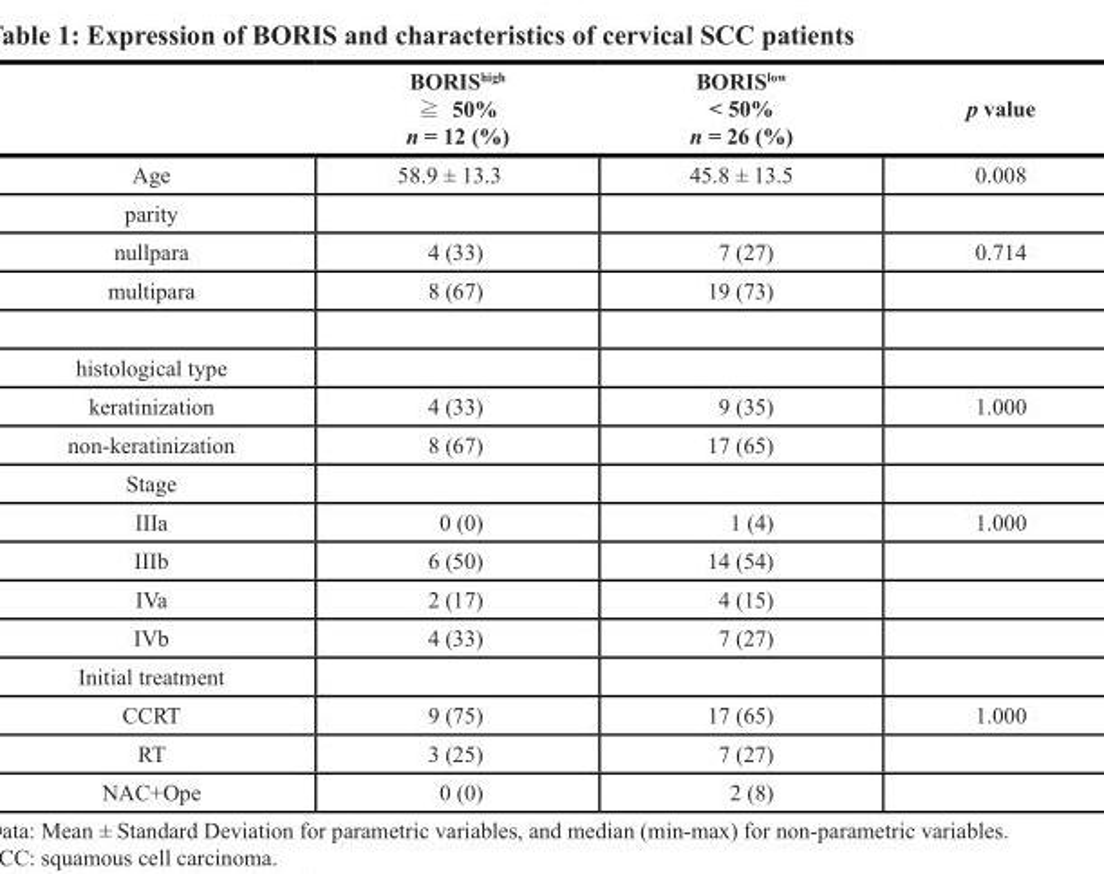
<table><thead><tr><td></td><td>BORIS<sup>high</sup> ≧ 50% n = 12 (%)</td><td>BORIS<sup>low</sup> &lt; 50% n = 26 (%)</td><td>p value</td></tr></thead><tbody><tr><td>Age</td><td>58.9 ± 13.3</td><td>45.8 ± 13.5</td><td>0.008</td></tr><tr><td colspan="4">parity</td></tr><tr><td>nullpara</td><td>4 (33)</td><td>7 (27)</td><td>0.714</td></tr><tr><td>multipara</td><td>8 (67)</td><td>19 (73)</td><td></td></tr><tr><td colspan="4">histological type</td></tr><tr><td>keratinization</td><td>4 (33)</td><td>9 (35)</td><td>1.000</td></tr><tr><td>non-keratinization</td><td>8 (67)</td><td>17 (65)</td><td></td></tr><tr><td colspan="4">Stage</td></tr><tr><td>IIIa</td><td>0 (0)</td><td>1 (4)</td><td>1.000</td></tr><tr><td>IIIb</td><td>6 (50)</td><td>14 (54)</td><td></td></tr><tr><td>IVa</td><td>2 (17)</td><td>4 (15)</td><td></td></tr><tr><td>IVb</td><td>4 (33)</td><td>7 (27)</td><td></td></tr><tr><td colspan="4">Initial treatment</td></tr><tr><td>CCRT</td><td>9 (75)</td><td>17 (65)</td><td>1.000</td></tr><tr><td>RT</td><td>3 (25)</td><td>7 (27)</td><td></td></tr><tr><td>NAC+Ope</td><td>0 (0)</td><td>2 (8)</td><td></td></tr></tbody></table>